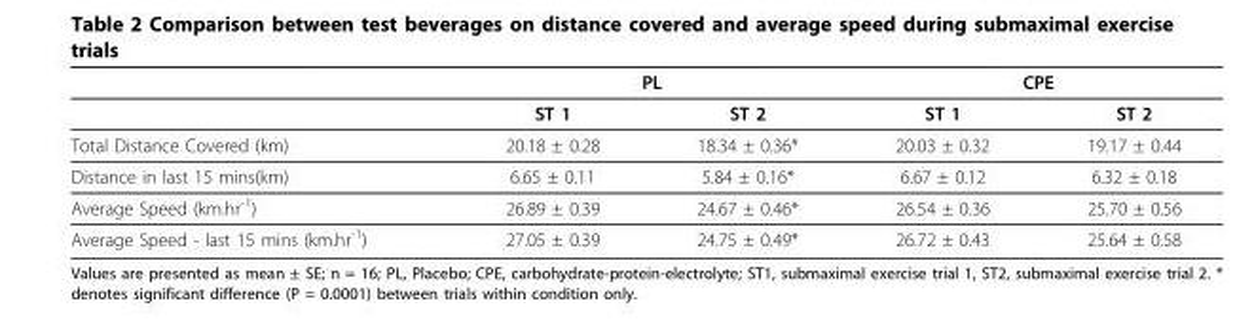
<table><thead><tr><td rowspan="2"></td><td colspan="2">PL</td><td colspan="2">CPE</td></tr><tr><td>ST 1</td><td>ST 2</td><td>ST 1</td><td>ST 2</td></tr></thead><tbody><tr><td>Total Distance Covered (km)</td><td>20.18 ± 0.28</td><td>18.34 ± 0.36*</td><td>20.03 ± 0.32</td><td>19.17 ± 0.44</td></tr><tr><td>Distance in last 15 mins(km)</td><td>6.65 ± 0.11</td><td>5.84 ± 0.16*</td><td>6.67 ± 0.12</td><td>6.32 ± 0.18</td></tr><tr><td>Average Speed (km.hr<sup>-1</sup>)</td><td>26.89 ± 0.39</td><td>24.67 ± 0.46*</td><td>26.54 ± 0.36</td><td>25.70 ± 0.56</td></tr><tr><td>Average Speed - last 15 mins (km.hr<sup>-1</sup>)</td><td>27.05 ± 0.39</td><td>24.75 ± 0.49*</td><td>26.72 ± 0.43</td><td>25.64 ± 0.58</td></tr></tbody></table>